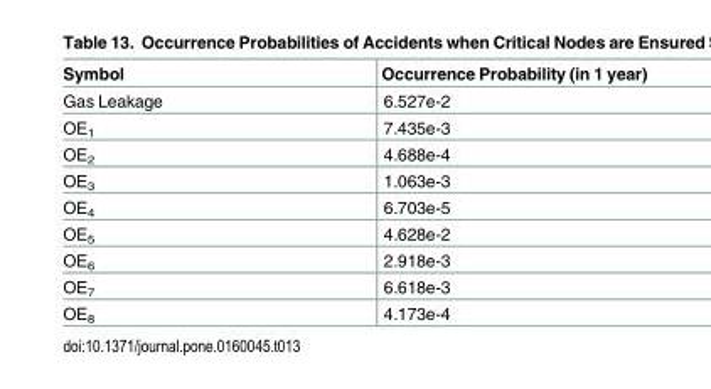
<table><thead><tr><td>Symbol</td><td>Occurrence Probability (in 1 year)</td></tr></thead><tbody><tr><td>Gas Leakage</td><td>6.527e-2</td></tr><tr><td>OE<sub>1</sub></td><td>7.435e-3</td></tr><tr><td>OE<sub>2</sub></td><td>4.688e-4</td></tr><tr><td>OE<sub>3</sub></td><td>1.063e-3</td></tr><tr><td>OE<sub>4</sub></td><td>6.703e-5</td></tr><tr><td>OE<sub>5</sub></td><td>4.628e-2</td></tr><tr><td>OE<sub>6</sub></td><td>2.918e-3</td></tr><tr><td>OE<sub>7</sub></td><td>6.618e-3</td></tr><tr><td>OE<sub>8</sub></td><td>4.173e-4</td></tr></tbody></table>